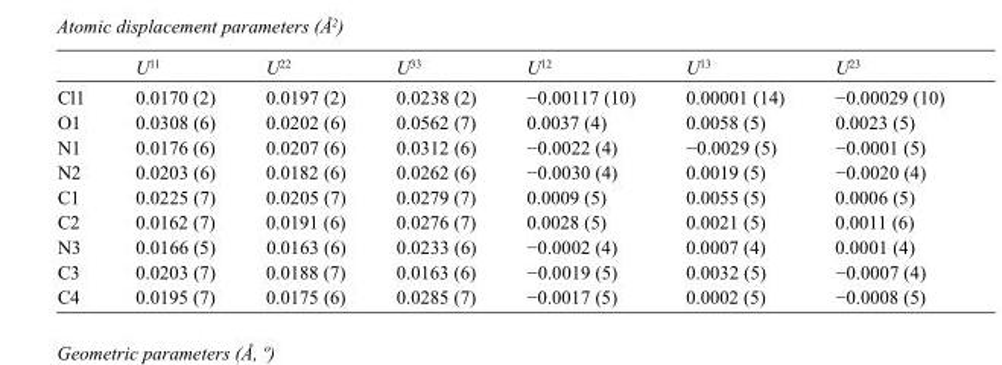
<table><thead><tr><td></td><td>U<sup>11</sup></td><td>U<sup>22</sup></td><td>U<sup>33</sup></td><td>U<sup>12</sup></td><td>U<sup>13</sup></td><td>U<sup>23</sup></td></tr></thead><tbody><tr><td>Cl1</td><td>0.0170 (2)</td><td>0.0197 (2)</td><td>0.0238 (2)</td><td>−0.00117 (10)</td><td>0.00001 (14)</td><td>−0.00029 (10)</td></tr><tr><td>O1</td><td>0.0308 (6)</td><td>0.0202 (6)</td><td>0.0562 (7)</td><td>0.0037 (4)</td><td>0.0058 (5)</td><td>0.0023 (5)</td></tr><tr><td>N1</td><td>0.0176 (6)</td><td>0.0207 (6)</td><td>0.0312 (6)</td><td>−0.0022 (4)</td><td>−0.0029 (5)</td><td>−0.0001 (5)</td></tr><tr><td>N2</td><td>0.0203 (6)</td><td>0.0182 (6)</td><td>0.0262 (6)</td><td>−0.0030 (4)</td><td>0.0019 (5)</td><td>−0.0020 (4)</td></tr><tr><td>C1</td><td>0.0225 (7)</td><td>0.0205 (7)</td><td>0.0279 (7)</td><td>0.0009 (5)</td><td>0.0055 (5)</td><td>0.0006 (5)</td></tr><tr><td>C2</td><td>0.0162 (7)</td><td>0.0191 (6)</td><td>0.0276 (7)</td><td>0.0028 (5)</td><td>0.0021 (5)</td><td>0.0011 (6)</td></tr><tr><td>N3</td><td>0.0166 (5)</td><td>0.0163 (6)</td><td>0.0233 (6)</td><td>−0.0002 (4)</td><td>0.0007 (4)</td><td>0.0001 (4)</td></tr><tr><td>C3</td><td>0.0203 (7)</td><td>0.0188 (7)</td><td>0.0163 (6)</td><td>−0.0019 (5)</td><td>0.0032 (5)</td><td>−0.0007 (4)</td></tr><tr><td>C4</td><td>0.0195 (7)</td><td>0.0175 (6)</td><td>0.0285 (7)</td><td>−0.0017 (5)</td><td>0.0002 (5)</td><td>−0.0008 (5)</td></tr></tbody></table>